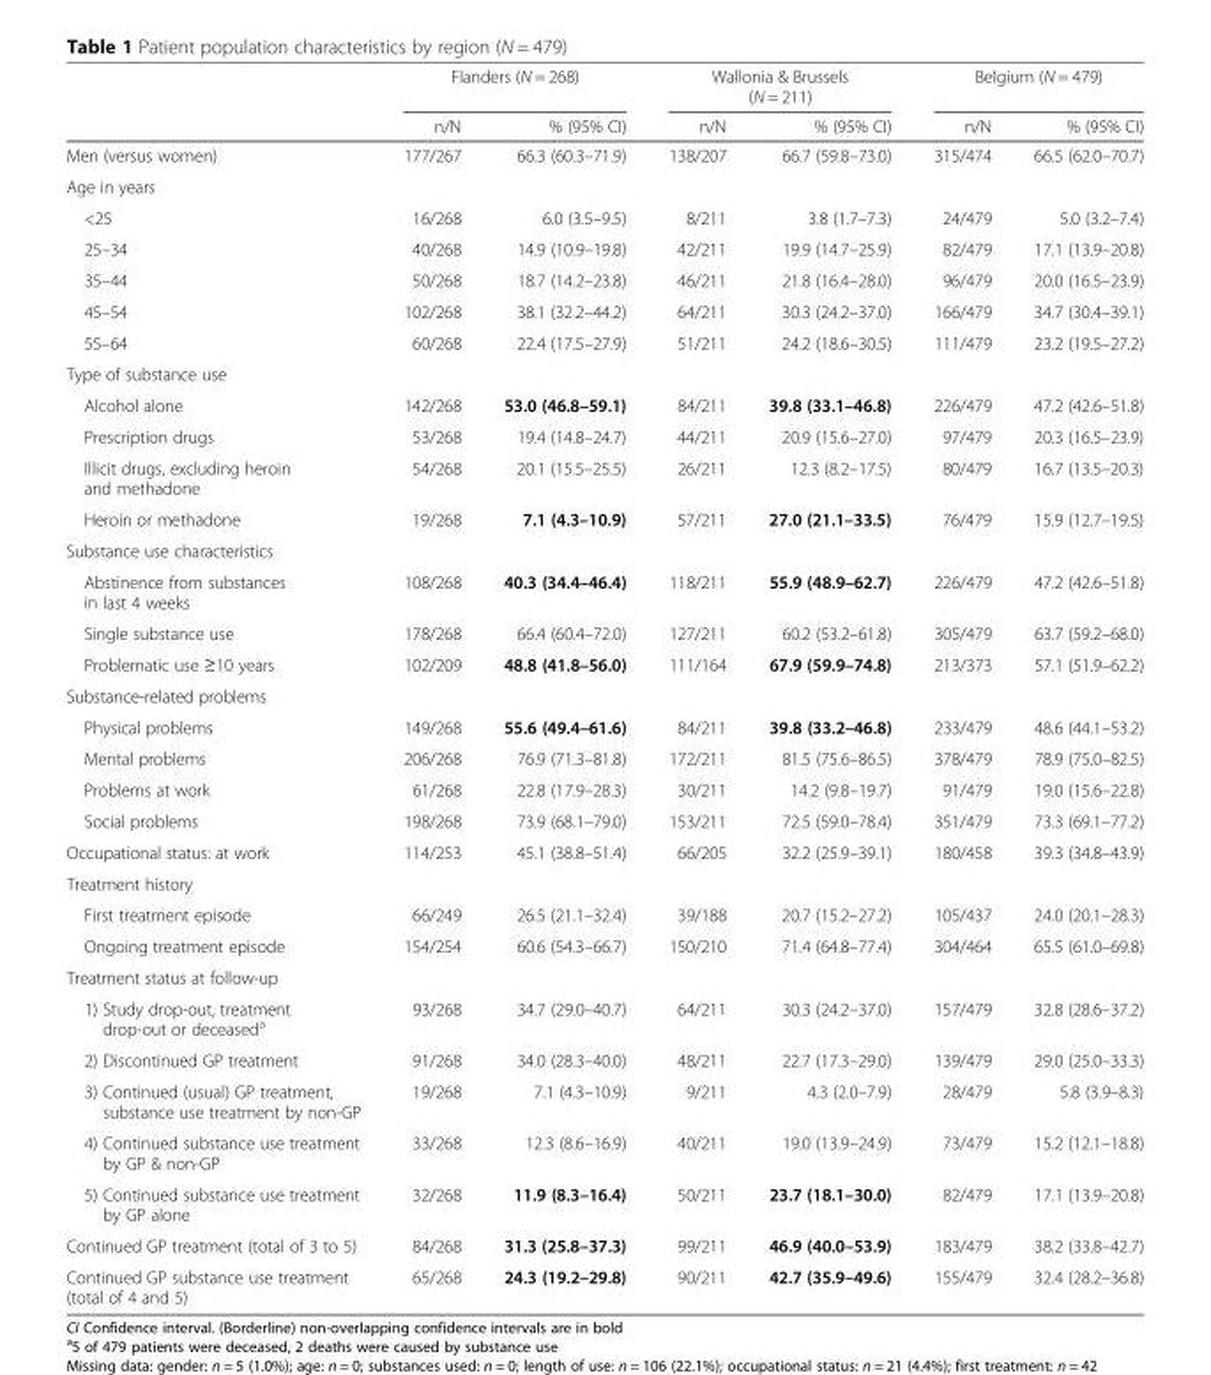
<table><thead><tr><td rowspan="2"></td><td colspan="2">Flanders (N = 268)</td><td colspan="2">Wallonia &amp; Brussels (N = 211)</td><td colspan="2">Belgium (N = 479)</td></tr><tr><td>n/N</td><td>% (95% CI)</td><td>n/N</td><td>% (95% CI)</td><td>n/N</td><td>% (95% CI)</td></tr></thead><tbody><tr><td>Men (versus women)</td><td>177/267</td><td>66.3 (60.3–71.9)</td><td>138/207</td><td>66.7 (59.8–73.0)</td><td>315/474</td><td>66.5 (62.0–70.7)</td></tr><tr><td colspan="7">Age in years</td></tr><tr><td>&lt;25</td><td>16/268</td><td>6.0 (3.5–9.5)</td><td>8/211</td><td>3.8 (1.7–7.3)</td><td>24/479</td><td>5.0 (3.2–7.4)</td></tr><tr><td>25–34</td><td>40/268</td><td>14.9 (10.9–19.8)</td><td>42/211</td><td>19.9 (14.7–25.9)</td><td>82/479</td><td>17.1 (13.9–20.8)</td></tr><tr><td>35–44</td><td>50/268</td><td>18.7 (14.2–23.8)</td><td>46/211</td><td>21.8 (16.4–28.0)</td><td>96/479</td><td>20.0 (16.5–23.9)</td></tr><tr><td>45–54</td><td>102/268</td><td>38.1 (32.2–44.2)</td><td>64/211</td><td>30.3 (24.2–37.0)</td><td>166/479</td><td>34.7 (30.4–39.1)</td></tr><tr><td>55–64</td><td>60/268</td><td>22.4 (17.5–27.9)</td><td>51/211</td><td>24.2 (18.6–30.5)</td><td>111/479</td><td>23.2 (19.5–27.2)</td></tr><tr><td colspan="7">Type of substance use</td></tr><tr><td>Alcohol alone</td><td>142/268</td><td>53.0 (46.8–59.1)</td><td>84/211</td><td>39.8 (33.1–46.8)</td><td>226/479</td><td>47.2 (42.6–51.8)</td></tr><tr><td>Prescription drugs</td><td>53/268</td><td>19.4 (14.8–24.7)</td><td>44/211</td><td>20.9 (15.6–27.0)</td><td>97/479</td><td>20.3 (16.5–23.9)</td></tr><tr><td>Illicit drugs, excluding heroin and methadone</td><td>54/268</td><td>20.1 (15.5–25.5)</td><td>26/211</td><td>12.3 (8.2–17.5)</td><td>80/479</td><td>16.7 (13.5–20.3)</td></tr><tr><td>Heroin or methadone</td><td>19/268</td><td>7.1 (4.3–10.9)</td><td>57/211</td><td>27.0 (21.1–33.5)</td><td>76/479</td><td>15.9 (12.7–19.5)</td></tr><tr><td colspan="7">Substance use characteristics</td></tr><tr><td>Abstinence from substances in last 4 weeks</td><td>108/268</td><td>40.3 (34.4–46.4)</td><td>118/211</td><td>55.9 (48.9–62.7)</td><td>226/479</td><td>47.2 (42.6–51.8)</td></tr><tr><td>Single substance use</td><td>178/268</td><td>66.4 (60.4–72.0)</td><td>127/211</td><td>60.2 (53.2–61.8)</td><td>305/479</td><td>63.7 (59.2–68.0)</td></tr><tr><td>Problematic use ≥10 years</td><td>102/209</td><td>48.8 (41.8–56.0)</td><td>111/164</td><td>67.9 (59.9–74.8)</td><td>213/373</td><td>57.1 (51.9–62.2)</td></tr><tr><td colspan="7">Substance-related problems</td></tr><tr><td>Physical problems</td><td>149/268</td><td>55.6 (49.4–61.6)</td><td>84/211</td><td>39.8 (33.2–46.8)</td><td>233/479</td><td>48.6 (44.1–53.2)</td></tr><tr><td>Mental problems</td><td>206/268</td><td>76.9 (71.3–81.8)</td><td>172/211</td><td>81.5 (75.6–86.5)</td><td>378/479</td><td>78.9 (75.0–82.5)</td></tr><tr><td>Problems at work</td><td>61/268</td><td>22.8 (17.9–28.3)</td><td>30/211</td><td>14.2 (9.8–19.7)</td><td>91/479</td><td>19.0 (15.6–22.8)</td></tr><tr><td>Social problems</td><td>198/268</td><td>73.9 (68.1–79.0)</td><td>153/211</td><td>72.5 (59.0–78.4)</td><td>351/479</td><td>73.3 (69.1–77.2)</td></tr><tr><td>Occupational status: at work</td><td>114/253</td><td>45.1 (38.8–51.4)</td><td>66/205</td><td>32.2 (25.9–39.1)</td><td>180/458</td><td>39.3 (34.8–43.9)</td></tr><tr><td colspan="7">Treatment history</td></tr><tr><td>First treatment episode</td><td>66/249</td><td>26.5 (21.1–32.4)</td><td>39/188</td><td>20.7 (15.2–27.2)</td><td>105/437</td><td>24.0 (20.1–28.3)</td></tr><tr><td>Ongoing treatment episode</td><td>154/254</td><td>60.6 (54.3–66.7)</td><td>150/210</td><td>71.4 (64.8–77.4)</td><td>304/464</td><td>65.5 (61.0–69.8)</td></tr><tr><td colspan="7">Treatment status at follow-up</td></tr><tr><td>1) Study drop-out, treatment drop-out or deceased<sup>a</sup></td><td>93/268</td><td>34.7 (29.0–40.7)</td><td>64/211</td><td>30.3 (24.2–37.0)</td><td>157/479</td><td>32.8 (28.6–37.2)</td></tr><tr><td>2) Discontinued GP treatment</td><td>91/268</td><td>34.0 (28.3–40.0)</td><td>48/211</td><td>22.7 (17.3–29.0)</td><td>139/479</td><td>29.0 (25.0–33.3)</td></tr><tr><td>3) Continued (usual) GP treatment, substance use treatment by non-GP</td><td>19/268</td><td>7.1 (4.3–10.9)</td><td>9/211</td><td>4.3 (2.0–7.9)</td><td>28/479</td><td>5.8 (3.9–8.3)</td></tr><tr><td>4) Continued substance use treatment by GP &amp; non-GP</td><td>33/268</td><td>12.3 (8.6–16.9)</td><td>40/211</td><td>19.0 (13.9–24.9)</td><td>73/479</td><td>15.2 (12.1–18.8)</td></tr><tr><td>5) Continued substance use treatment by GP alone</td><td>32/268</td><td>11.9 (8.3–16.4)</td><td>50/211</td><td>23.7 (18.1–30.0)</td><td>82/479</td><td>17.1 (13.9–20.8)</td></tr><tr><td>Continued GP treatment (total of 3 to 5)</td><td>84/268</td><td>31.3 (25.8–37.3)</td><td>99/211</td><td>46.9 (40.0–53.9)</td><td>183/479</td><td>38.2 (33.8–42.7)</td></tr><tr><td>Continued GP substance use treatment (total of 4 and 5)</td><td>65/268</td><td>24.3 (19.2–29.8)</td><td>90/211</td><td>42.7 (35.9–49.6)</td><td>155/479</td><td>32.4 (28.2–36.8)</td></tr></tbody></table>